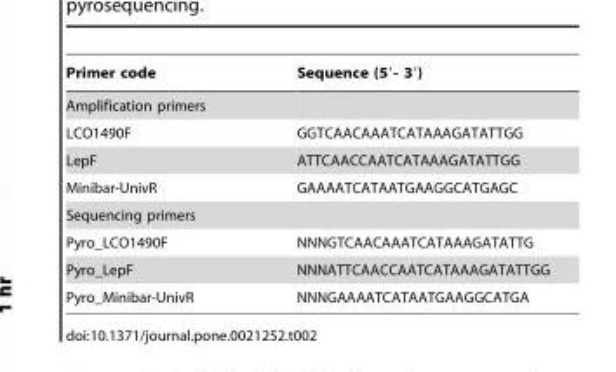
<table><thead><tr><td>Primer code</td><td>Sequence (5′- 3′)</td></tr></thead><tbody><tr><td colspan="2">Amplification primers</td></tr><tr><td>LCO1490F</td><td>GGTCAACAAATCATAAAGATATTGG</td></tr><tr><td>LepF</td><td>ATTCAACCAATCATAAAGATATTGG</td></tr><tr><td>Minibar-UnivR</td><td>GAAAATCATAATGAAGGCATGAGC</td></tr><tr><td colspan="2">Sequencing primers</td></tr><tr><td>Pyro_LCO1490F</td><td>NNNGTCAACAAATCATAAAGATATTG</td></tr><tr><td>Pyro_LepF</td><td>NNNATTCAACCAATCATAAAGATATTGG</td></tr><tr><td>Pyro_Minibar-UnivR</td><td>NNNGAAAATCATAATGAAGGCATGA</td></tr></tbody></table>